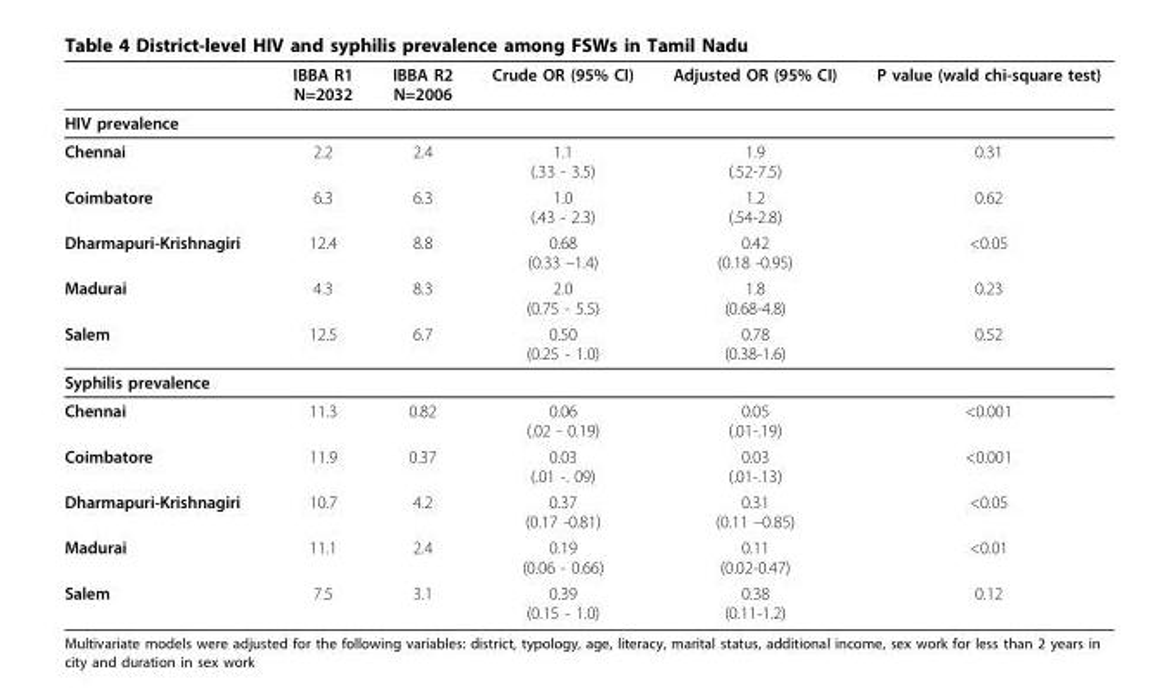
<table><thead><tr><td></td><td>IBBA R1 N=2032</td><td>IBBA R2 N=2006</td><td>Crude OR (95% CI)</td><td>Adjusted OR (95% CI)</td><td>P value (wald chi-square test)</td></tr></thead><tbody><tr><td colspan="6">HIV prevalence</td></tr><tr><td>Chennai</td><td>2.2</td><td>2.4</td><td>1.1 (.33 - 3.5)</td><td>1.9 (.52-7.5)</td><td>0.31</td></tr><tr><td>Coimbatore</td><td>6.3</td><td>6.3</td><td>1.0 (.43 - 2.3)</td><td>1.2 (.54-2.8)</td><td>0.62</td></tr><tr><td>Dharmapuri-Krishnagiri</td><td>12.4</td><td>8.8</td><td>0.68 (0.33 –1.4)</td><td>0.42 (0.18 -0.95)</td><td>&lt;0.05</td></tr><tr><td>Madurai</td><td>4.3</td><td>8.3</td><td>2.0 (0.75 - 5.5)</td><td>1.8 (0.68-4.8)</td><td>0.23</td></tr><tr><td>Salem</td><td>12.5</td><td>6.7</td><td>0.50 (0.25 - 1.0)</td><td>0.78 (0.38-1.6)</td><td>0.52</td></tr><tr><td colspan="6">Syphilis prevalence</td></tr><tr><td>Chennai</td><td>11.3</td><td>0.82</td><td>0.06 (.02 - 0.19)</td><td>0.05 (.01-.19)</td><td>&lt;0.001</td></tr><tr><td>Coimbatore</td><td>11.9</td><td>0.37</td><td>0.03 (.01 -. 09)</td><td>0.03 (.01-.13)</td><td>&lt;0.001</td></tr><tr><td>Dharmapuri-Krishnagiri</td><td>10.7</td><td>4.2</td><td>0.37 (0.17 -0.81)</td><td>0.31 (0.11 –0.85)</td><td>&lt;0.05</td></tr><tr><td>Madurai</td><td>11.1</td><td>2.4</td><td>0.19 (0.06 - 0.66)</td><td>0.11 (0.02-0.47)</td><td>&lt;0.01</td></tr><tr><td>Salem</td><td>7.5</td><td>3.1</td><td>0.39 (0.15 - 1.0)</td><td>0.38 (0.11-1.2)</td><td>0.12</td></tr></tbody></table>